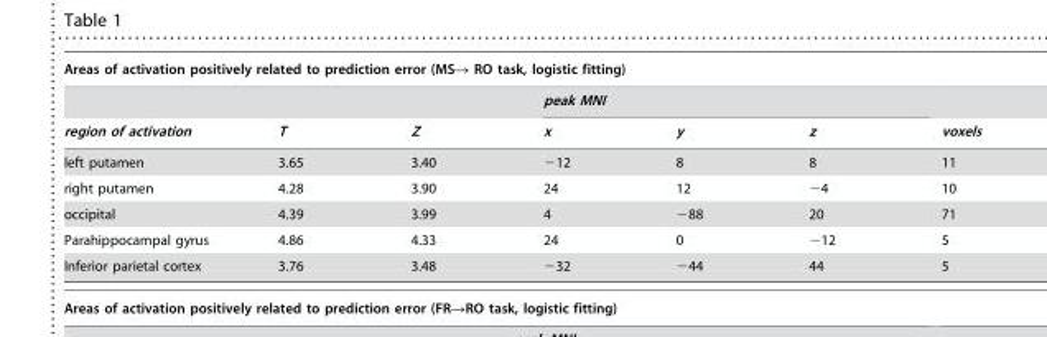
<table><thead><tr><td colspan="7">Areas of activation positively related to prediction error (MS→ RO task, logistic fitting)</td></tr><tr><td rowspan="2">region of activation</td><td rowspan="2">T</td><td rowspan="2">Z</td><td colspan="3">peak MNI</td><td rowspan="2">voxels</td></tr><tr><td>x</td><td>y</td><td>z</td></tr></thead><tbody><tr><td>left putamen</td><td>3.65</td><td>3.40</td><td>−12</td><td>8</td><td>8</td><td>11</td></tr><tr><td>right putamen</td><td>4.28</td><td>3.90</td><td>24</td><td>12</td><td>−4</td><td>10</td></tr><tr><td>occipital</td><td>4.39</td><td>3.99</td><td>4</td><td>−88</td><td>20</td><td>71</td></tr><tr><td>Parahippocampal gyrus</td><td>4.86</td><td>4.33</td><td>24</td><td>0</td><td>−12</td><td>5</td></tr><tr><td>Inferior parietal cortex</td><td>3.76</td><td>3.48</td><td>−32</td><td>−44</td><td>44</td><td>5</td></tr></tbody></table>